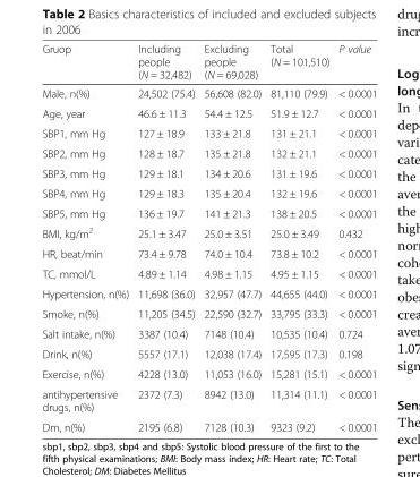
<table><thead><tr><td>Gruop</td><td>Including people (N = 32,482)</td><td>Excluding people (N = 69,028)</td><td>Total (N = 101,510)</td><td>P value</td></tr></thead><tbody><tr><td>Male, n(%)</td><td>24,502 (75.4)</td><td>56,608 (82.0)</td><td>81,110 (79.9)</td><td>&lt; 0.0001</td></tr><tr><td>Age, year</td><td>46.6 ± 11.3</td><td>54.4 ± 12.5</td><td>51.9 ± 12.7</td><td>&lt; 0.0001</td></tr><tr><td>SBP1, mm Hg</td><td>127 ± 18.9</td><td>133 ± 21.8</td><td>131 ± 21.1</td><td>&lt; 0.0001</td></tr><tr><td>SBP2, mm Hg</td><td>128 ± 18.7</td><td>135 ± 21.8</td><td>132 ± 21.1</td><td>&lt; 0.0001</td></tr><tr><td>SBP3, mm Hg</td><td>129 ± 18.1</td><td>134 ± 20.6</td><td>131 ± 19.6</td><td>&lt; 0.0001</td></tr><tr><td>SBP4, mm Hg</td><td>129 ± 18.3</td><td>135 ± 20.4</td><td>132 ± 19.6</td><td>&lt; 0.0001</td></tr><tr><td>SBP5, mm Hg</td><td>136 ± 19.7</td><td>141 ± 21.3</td><td>138 ± 20.5</td><td>&lt; 0.0001</td></tr><tr><td>BMI, kg/m<sup>2</sup></td><td>25.1 ± 3.47</td><td>25.0 ± 3.51</td><td>25.0 ± 3.49</td><td>0.432</td></tr><tr><td>HR, beat/min</td><td>73.4 ± 9.78</td><td>74.0 ± 10.4</td><td>73.8 ± 10.2</td><td>&lt; 0.0001</td></tr><tr><td>TC, mmol/L</td><td>4.89 ± 1.14</td><td>4.98 ± 1.15</td><td>4.95 ± 1.15</td><td>&lt; 0.0001</td></tr><tr><td>Hypertension, n(%)</td><td>11,698 (36.0)</td><td>32,957 (47.7)</td><td>44,655 (44.0)</td><td>&lt; 0.0001</td></tr><tr><td>Smoke, n(%)</td><td>11,205 (34.5)</td><td>22,590 (32.7)</td><td>33,795 (33.3)</td><td>&lt; 0.0001</td></tr><tr><td>Salt intake, n(%)</td><td>3387 (10.4)</td><td>7148 (10.4)</td><td>10,535 (10.4)</td><td>0.724</td></tr><tr><td>Drink, n(%)</td><td>5557 (17.1)</td><td>12,038 (17.4)</td><td>17,595 (17.3)</td><td>0.198</td></tr><tr><td>Exercise, n(%)</td><td>4228 (13.0)</td><td>11,053 (16.0)</td><td>15,281 (15.1)</td><td>&lt; 0.0001</td></tr><tr><td>antihypertensive drugs, n(%)</td><td>2372 (7.3)</td><td>8942 (13.0)</td><td>11,314 (11.1)</td><td>&lt; 0.0001</td></tr><tr><td>Dm, n(%)</td><td>2195 (6.8)</td><td>7128 (10.3)</td><td>9323 (9.2)</td><td>&lt; 0.0001</td></tr></tbody></table>